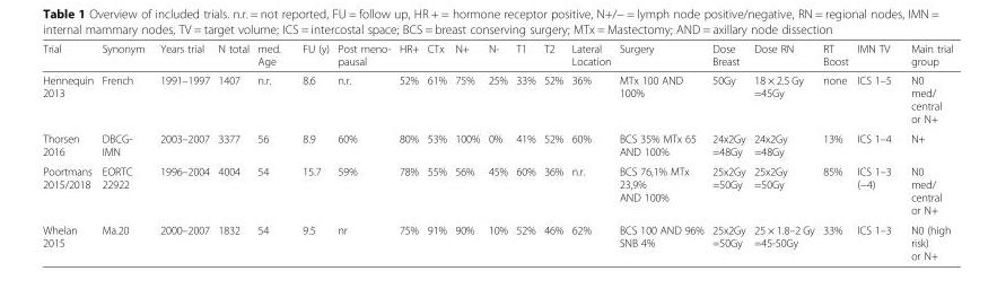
<table><thead><tr><td>Trial</td><td>Synonym</td><td>Years trial</td><td>N total</td><td>med. Age</td><td>FU (y)</td><td>Post meno- pausal</td><td>HR+</td><td>CTx</td><td>N+</td><td>N-</td><td>T1</td><td>T2</td><td>Lateral Location</td><td>Surgery</td><td>Dose Breast</td><td>Dose RN</td><td>RT Boost</td><td>IMN TV</td><td>Main trial group</td></tr></thead><tbody><tr><td>Hennequin 2013</td><td>French</td><td>1991–1997</td><td>1407</td><td>n.r.</td><td>8.6</td><td>n.r.</td><td>52%</td><td>61%</td><td>75%</td><td>25%</td><td>33%</td><td>52%</td><td>36%</td><td>MTx 100 AND 100%</td><td>50Gy</td><td>18 × 2.5 Gy =45Gy</td><td>none</td><td>ICS 1–5</td><td>N0 med/ central or N+</td></tr><tr><td>Thorsen 2016</td><td>DBCG- IMN</td><td>2003–2007</td><td>3377</td><td>56</td><td>8.9</td><td>60%</td><td>80%</td><td>53%</td><td>100%</td><td>0%</td><td>41%</td><td>52%</td><td>60%</td><td>BCS 35% MTx 65 AND 100%</td><td>24x2Gy =48Gy</td><td>24x2Gy =48Gy</td><td>13%</td><td>ICS 1–4</td><td>N+</td></tr><tr><td>Poortmans 2015/2018</td><td>EORTC 22922</td><td>1996–2004</td><td>4004</td><td>54</td><td>15.7</td><td>59%</td><td>78%</td><td>55%</td><td>56%</td><td>45%</td><td>60%</td><td>36%</td><td>n.r.</td><td>BCS 76,1% MTx 23,9% AND 100%</td><td>25x2Gy =50Gy</td><td>25x2Gy =50Gy</td><td>85%</td><td>ICS 1–3 (−4)</td><td>N0 med/ central or N+</td></tr><tr><td>Whelan 2015</td><td>Ma.20</td><td>2000–2007</td><td>1832</td><td>54</td><td>9.5</td><td>nr</td><td>75%</td><td>91%</td><td>90%</td><td>10%</td><td>52%</td><td>46%</td><td>62%</td><td>BCS 100 AND 96% SNB 4%</td><td>25x2Gy =50Gy</td><td>25 × 1.8–2 Gy =45-50Gy</td><td>33%</td><td>ICS 1–3</td><td>N0 (high risk) or N+</td></tr></tbody></table>